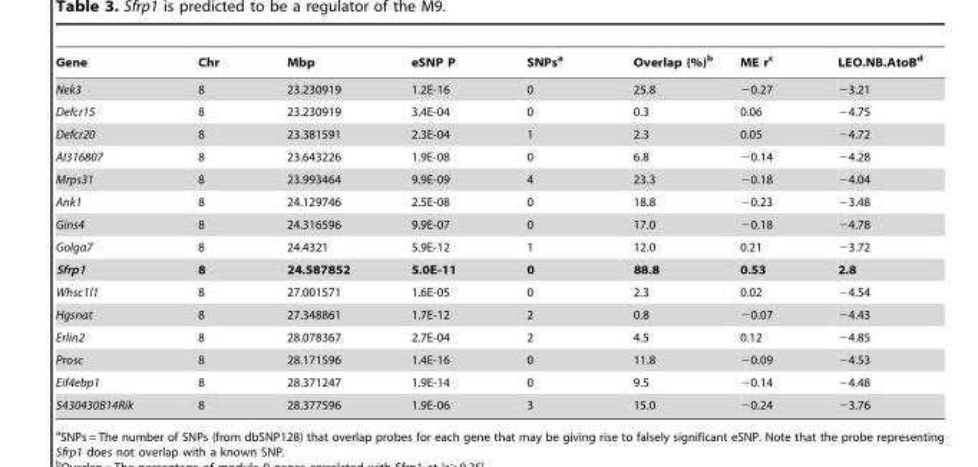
<table><thead><tr><td>Gene</td><td>Chr</td><td>Mbp</td><td>eSNP P</td><td>SNPs<sup>a</sup></td><td>Overlap (%)<sup>b</sup></td><td>ME r<sup>c</sup></td><td>LEO.NB.AtoB<sup>d</sup></td></tr></thead><tbody><tr><td>Nek3</td><td>8</td><td>23.230919</td><td>1.2E-16</td><td>0</td><td>25.8</td><td>−0.27</td><td>−3.21</td></tr><tr><td>Defcr15</td><td>8</td><td>23.230919</td><td>3.4E-04</td><td>0</td><td>0.3</td><td>0.06</td><td>−4.75</td></tr><tr><td>Defcr20</td><td>8</td><td>23.381591</td><td>2.3E-04</td><td>1</td><td>2.3</td><td>0.05</td><td>−4.72</td></tr><tr><td>AI316807</td><td>8</td><td>23.643226</td><td>1.9E-08</td><td>0</td><td>6.8</td><td>−0.14</td><td>−4.28</td></tr><tr><td>Mrps31</td><td>8</td><td>23.993464</td><td>9.9E-09</td><td>4</td><td>23.3</td><td>−0.18</td><td>−4.04</td></tr><tr><td>Ank1</td><td>8</td><td>24.129746</td><td>2.5E-08</td><td>0</td><td>18.8</td><td>−0.23</td><td>−3.48</td></tr><tr><td>Gins4</td><td>8</td><td>24.316596</td><td>9.9E-07</td><td>0</td><td>17.0</td><td>−0.18</td><td>−4.78</td></tr><tr><td>Golga7</td><td>8</td><td>24.4321</td><td>5.9E-12</td><td>1</td><td>12.0</td><td>0.21</td><td>−3.72</td></tr><tr><td>Sfrp1</td><td>8</td><td>24.587852</td><td>5.0E-11</td><td>0</td><td>88.8</td><td>0.53</td><td>2.8</td></tr><tr><td>Whsc1l1</td><td>8</td><td>27.001571</td><td>1.6E-05</td><td>0</td><td>2.3</td><td>0.02</td><td>−4.54</td></tr><tr><td>Hgsnat</td><td>8</td><td>27.348861</td><td>1.7E-12</td><td>2</td><td>0.8</td><td>−0.07</td><td>−4.43</td></tr><tr><td>Erlin2</td><td>8</td><td>28.078367</td><td>2.7E-04</td><td>2</td><td>4.5</td><td>0.12</td><td>−4.85</td></tr><tr><td>Prosc</td><td>8</td><td>28.171596</td><td>1.4E-16</td><td>0</td><td>11.8</td><td>−0.09</td><td>−4.53</td></tr><tr><td>Eif4ebp1</td><td>8</td><td>28.371247</td><td>1.9E-14</td><td>0</td><td>9.5</td><td>−0.14</td><td>−4.48</td></tr><tr><td>5430430B14Rik</td><td>8</td><td>28.377596</td><td>1.9E-06</td><td>3</td><td>15.0</td><td>−0.24</td><td>−3.76</td></tr></tbody></table>